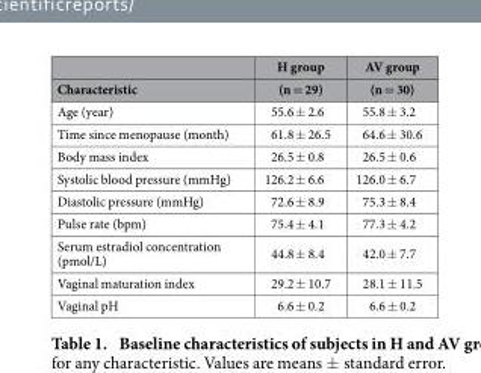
<table><thead><tr><td rowspan="2">Characteristic</td><td rowspan="2">H group (n = 29)</td><td rowspan="2">AV group (n = 30)</td></tr><tr></tr></thead><tbody><tr><td>Age (year)</td><td>55.6 ± 2.6</td><td>55.8 ± 3.2</td></tr><tr><td>Time since menopause (month)</td><td>61.8 ± 26.5</td><td>64.6 ± 30.6</td></tr><tr><td>Body mass index</td><td>26.5 ± 0.8</td><td>26.5 ± 0.6</td></tr><tr><td>Systolic blood pressure (mmHg)</td><td>126.2 ± 6.6</td><td>126.0 ± 6.7</td></tr><tr><td>Diastolic pressure (mmHg)</td><td>72.6 ± 8.9</td><td>75.3 ± 8.4</td></tr><tr><td>Pulse rate (bpm)</td><td>75.4 ± 4.1</td><td>77.3 ± 4.2</td></tr><tr><td>Serum estradiol concentration (pmol/L)</td><td>44.8 ± 8.4</td><td>42.0 ± 7.7</td></tr><tr><td>Vaginal maturation index</td><td>29.2 ± 10.7</td><td>28.1 ± 11.5</td></tr><tr><td>Vaginal pH</td><td>6.6 ± 0.2</td><td>6.6 ± 0.2</td></tr></tbody></table>